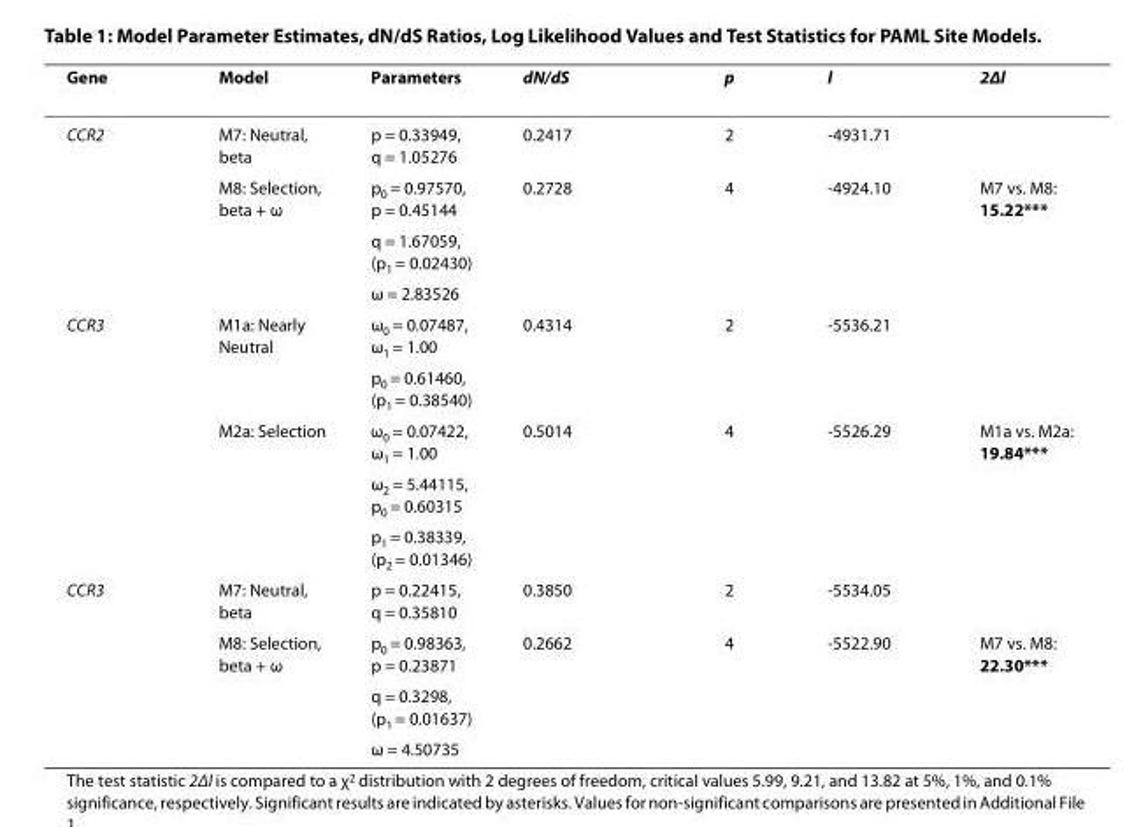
<table><thead><tr><td>Gene</td><td>Model</td><td>Parameters</td><td>dN/dS</td><td>p</td><td>l</td><td>2Δl</td></tr></thead><tbody><tr><td rowspan="4">CCR2</td><td>M7: Neutral, beta</td><td>p = 0.33949, q = 1.05276</td><td>0.2417</td><td>2</td><td>-4931.71</td><td></td></tr><tr><td>M8: Selection, beta + ω</td><td>p<sub>0</sub> = 0.97570, p = 0.45144</td><td>0.2728</td><td>4</td><td>-4924.10</td><td>M7 vs. M8: 15.22***</td></tr><tr><td></td><td>q = 1.67059, (p<sub>1</sub> = 0.02430)</td><td></td><td></td><td></td><td></td></tr><tr><td></td><td>ω = 2.83526</td><td></td><td></td><td></td><td></td></tr><tr><td rowspan="5">CCR3</td><td>M1a: Nearly Neutral</td><td>ω<sub>0</sub> = 0.07487, ω<sub>1</sub> = 1.00</td><td>0.4314</td><td>2</td><td>-5536.21</td><td></td></tr><tr><td></td><td>p<sub>0</sub> = 0.61460, (p<sub>1</sub> = 0.38540)</td><td></td><td></td><td></td><td></td></tr><tr><td>M2a: Selection</td><td>ω<sub>0</sub> = 0.07422, ω<sub>1</sub> = 1.00</td><td>0.5014</td><td>4</td><td>-5526.29</td><td>M1a vs. M2a: 19.84***</td></tr><tr><td></td><td>ω<sub>2</sub> = 5.44115, p<sub>0</sub> = 0.60315</td><td></td><td></td><td></td><td></td></tr><tr><td></td><td>p<sub>1</sub> = 0.38339, (p<sub>2</sub> = 0.01346)</td><td></td><td></td><td></td><td></td></tr><tr><td rowspan="4">CCR3</td><td>M7: Neutral, beta</td><td>p = 0.22415, q = 0.35810</td><td>0.3850</td><td>2</td><td>-5534.05</td><td></td></tr><tr><td>M8: Selection, beta + ω</td><td>p<sub>0</sub> = 0.98363, p = 0.23871</td><td>0.2662</td><td>4</td><td>-5522.90</td><td>M7 vs. M8: 22.30***</td></tr><tr><td></td><td>q = 0.3298, (p<sub>1</sub> = 0.01637)</td><td></td><td></td><td></td><td></td></tr><tr><td></td><td>ω = 4.50735</td><td></td><td></td><td></td><td></td></tr></tbody></table>